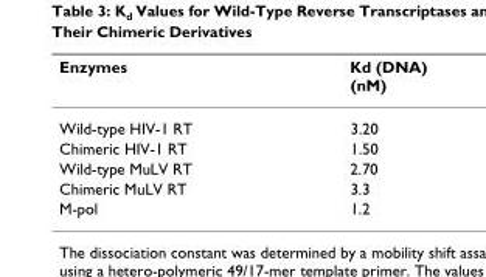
<table><thead><tr><td>Enzymes</td><td>Kd (DNA) (nM)</td></tr></thead><tbody><tr><td>Wild-type HIV-1 RT</td><td>3.20</td></tr><tr><td>Chimeric HIV-1 RT</td><td>1.50</td></tr><tr><td>Wild-type MuLV RT</td><td>2.70</td></tr><tr><td>Chimeric MuLV RT</td><td>3.3</td></tr><tr><td>M-pol</td><td>1.2</td></tr></tbody></table>